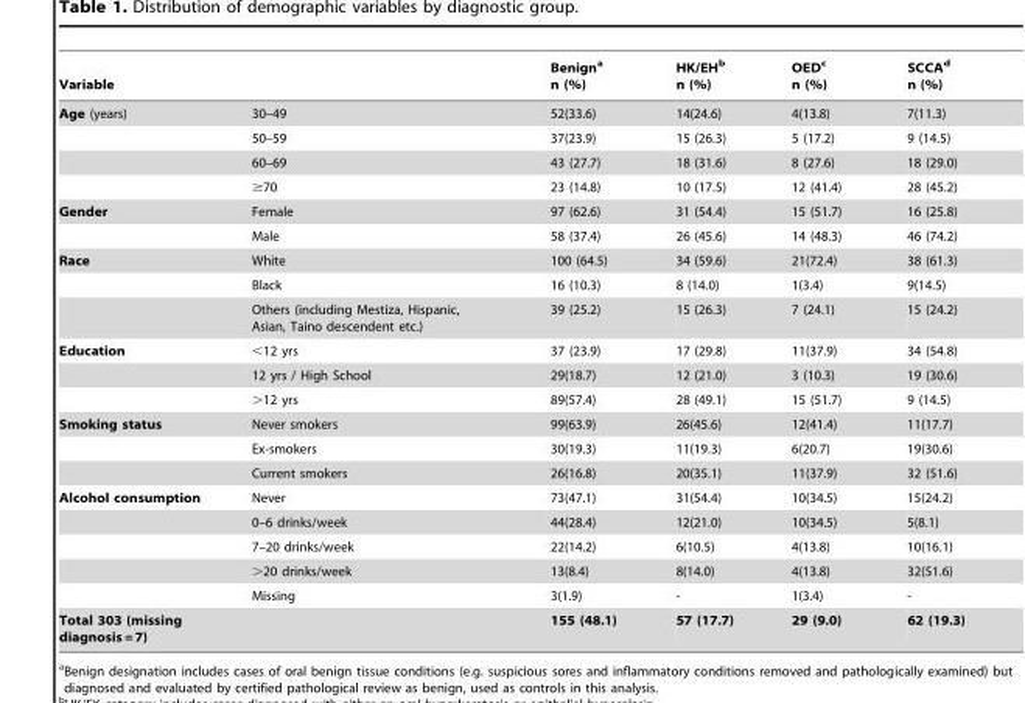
<table><thead><tr><td colspan="2">Variable</td><td rowspan="2">Benign<sup>a</sup> n (%) 52(33.6)</td><td rowspan="2">HK/EH<sup>b</sup> n (%) 14(24.6)</td><td rowspan="2">OED<sup>c</sup> n (%) 4(13.8)</td><td rowspan="2">SCCA<sup>d</sup> n (%) 7(11.3)</td></tr><tr><td>Age (years)</td><td>30–49</td></tr></thead><tbody><tr><td></td><td>50–59</td><td>37(23.9)</td><td>15 (26.3)</td><td>5 (17.2)</td><td>9 (14.5)</td></tr><tr><td></td><td>60–69</td><td>43 (27.7)</td><td>18 (31.6)</td><td>8 (27.6)</td><td>18 (29.0)</td></tr><tr><td></td><td>≥70</td><td>23 (14.8)</td><td>10 (17.5)</td><td>12 (41.4)</td><td>28 (45.2)</td></tr><tr><td rowspan="2">Gender</td><td>Female</td><td>97 (62.6)</td><td>31 (54.4)</td><td>15 (51.7)</td><td>16 (25.8)</td></tr><tr><td>Male</td><td>58 (37.4)</td><td>26 (45.6)</td><td>14 (48.3)</td><td>46 (74.2)</td></tr><tr><td rowspan="3">Race</td><td>White</td><td>100 (64.5)</td><td>34 (59.6)</td><td>21(72.4)</td><td>38 (61.3)</td></tr><tr><td>Black</td><td>16 (10.3)</td><td>8 (14.0)</td><td>1(3.4)</td><td>9(14.5)</td></tr><tr><td>Others (including Mestiza, Hispanic, Asian, Taino descendent etc.)</td><td>39 (25.2)</td><td>15 (26.3)</td><td>7 (24.1)</td><td>15 (24.2)</td></tr><tr><td rowspan="3">Education</td><td>&lt;12 yrs</td><td>37 (23.9)</td><td>17 (29.8)</td><td>11(37.9)</td><td>34 (54.8)</td></tr><tr><td>12 yrs / High School</td><td>29(18.7)</td><td>12 (21.0)</td><td>3 (10.3)</td><td>19 (30.6)</td></tr><tr><td>&gt;12 yrs</td><td>89(57.4)</td><td>28 (49.1)</td><td>15 (51.7)</td><td>9 (14.5)</td></tr><tr><td rowspan="3">Smoking status</td><td>Never smokers</td><td>99(63.9)</td><td>26(45.6)</td><td>12(41.4)</td><td>11(17.7)</td></tr><tr><td>Ex-smokers</td><td>30(19.3)</td><td>11(19.3)</td><td>6(20.7)</td><td>19(30.6)</td></tr><tr><td>Current smokers</td><td>26(16.8)</td><td>20(35.1)</td><td>11(37.9)</td><td>32 (51.6)</td></tr><tr><td rowspan="5">Alcohol consumption</td><td>Never</td><td>73(47.1)</td><td>31(54.4)</td><td>10(34.5)</td><td>15(24.2)</td></tr><tr><td>0–6 drinks/week</td><td>44(28.4)</td><td>12(21.0)</td><td>10(34.5)</td><td>5(8.1)</td></tr><tr><td>7–20 drinks/week</td><td>22(14.2)</td><td>6(10.5)</td><td>4(13.8)</td><td>10(16.1)</td></tr><tr><td>&gt;20 drinks/week</td><td>13(8.4)</td><td>8(14.0)</td><td>4(13.8)</td><td>32(51.6)</td></tr><tr><td>Missing</td><td>3(1.9)</td><td>-</td><td>1(3.4)</td><td>-</td></tr><tr><td>Total 303 (missing diagnosis = 7)</td><td></td><td>155 (48.1)</td><td>57 (17.7)</td><td>29 (9.0)</td><td>62 (19.3)</td></tr></tbody></table>